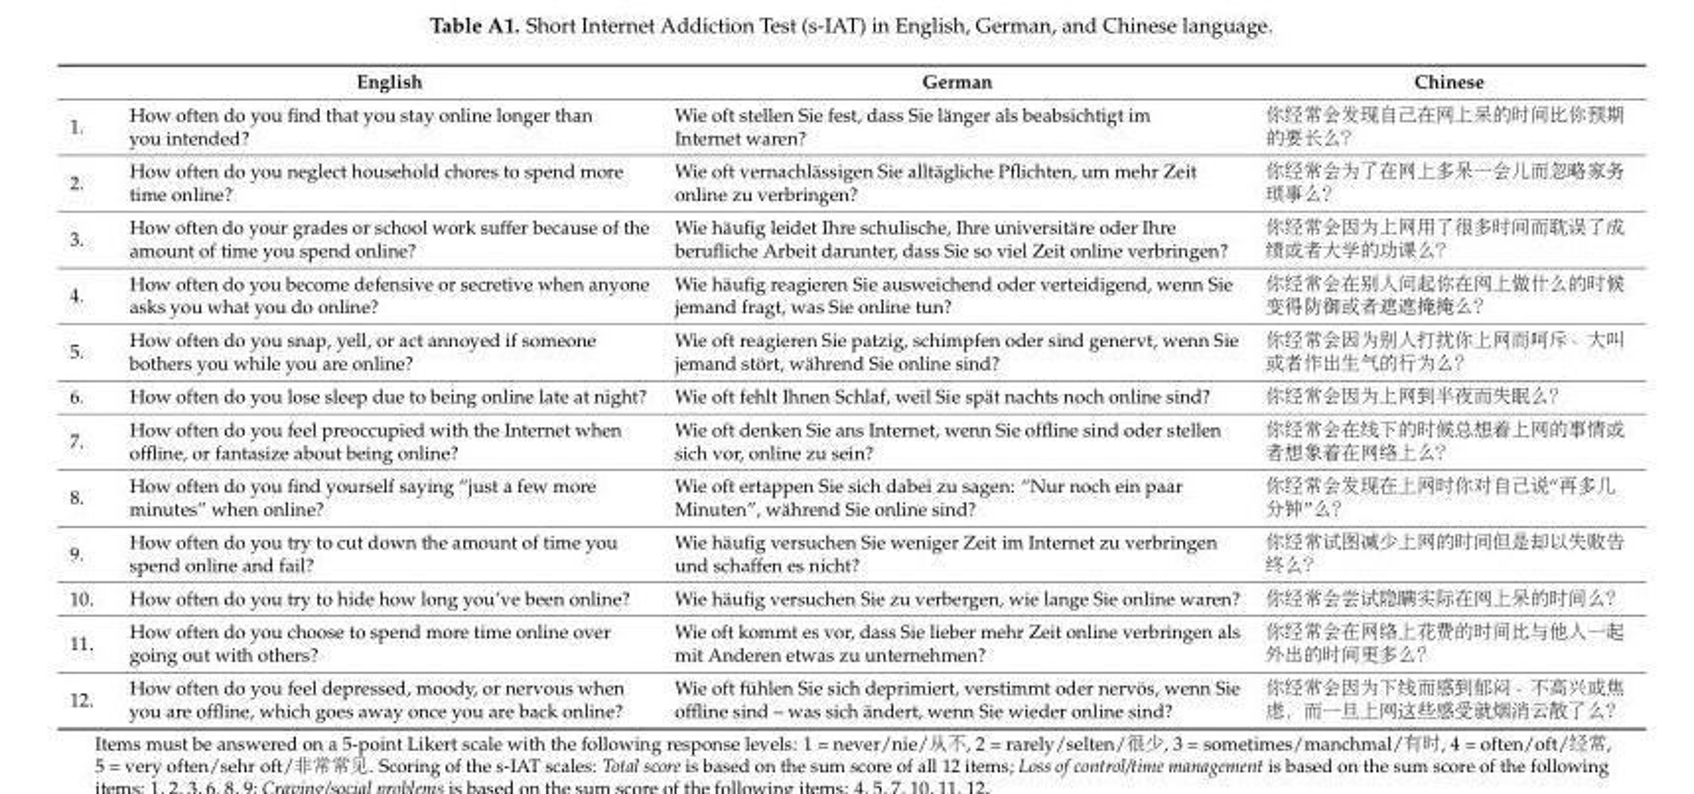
<table><thead><tr><td></td><td>English</td><td>German</td><td>Chinese</td></tr></thead><tbody><tr><td>1.</td><td>How often do you find that you stay online longer than you intended?</td><td>Wie oft stellen Sie fest, dass Sie länger als beabsichtigt im Internet waren?</td><td>你经常会发现自己在网上呆的时间比你预期 的要长么？</td></tr><tr><td>2.</td><td>How often do you neglect household chores to spend more time online?</td><td>Wie oft vernachlässigen Sie alltägliche Pflichten, um mehr Zeit online zu verbringen?</td><td>你经常会为了在网上多呆一会儿而忽略家务 琐事么？</td></tr><tr><td>3.</td><td>How often do your grades or school work suffer because of the amount of time you spend online?</td><td>Wie häufig leidet Ihre schulische, Ihre universitäre oder Ihre berufliche Arbeit darunter, dass Sie so viel Zeit online verbringen?</td><td>你经常会因为上网用了很多时间而耽误了成 绩或者大学的功课么？</td></tr><tr><td>4.</td><td>How often do you become defensive or secretive when anyone asks you what you do online?</td><td>Wie häufig reagieren Sie ausweichend oder verteidigend, wenn Sie jemand fragt, was Sie online tun?</td><td>你经常会在别人问起你在网上做什么的时候 变得防御或者遮遮掩掩么？</td></tr><tr><td>5.</td><td>How often do you snap, yell, or act annoyed if someone bothers you while you are online?</td><td>Wie oft reagieren Sie patzig, schimpfen oder sind genervt, wenn Sie jemand stört, während Sie online sind?</td><td>你经常会因为别人打扰你上网而呵斥、大叫 或者作出生气的行为么？</td></tr><tr><td>6.</td><td>How often do you lose sleep due to being online late at night?</td><td>Wie oft fehlt Ihnen Schlaf, weil Sie spät nachts noch online sind?</td><td>你经常会因为上网到半夜而失眠么？</td></tr><tr><td>7.</td><td>How often do you feel preoccupied with the Internet when offline, or fantasize about being online?</td><td>Wie oft denken Sie ans Internet, wenn Sie offline sind oder stellen sich vor, online zu sein?</td><td>你经常会在线下的时候总想着上网的事情或 者想象着在网络上么？</td></tr><tr><td>8.</td><td>How often do you find yourself saying “just a few more minutes” when online?</td><td>Wie oft ertappen Sie sich dabei zu sagen: “Nur noch ein paar Minuten”, während Sie online sind?</td><td>你经常会发现在上网时你对自己说“再多几 分钟”么？</td></tr><tr><td>9.</td><td>How often do you try to cut down the amount of time you spend online and fail?</td><td>Wie häufig versuchen Sie weniger Zeit im Internet zu verbringen und schaffen es nicht?</td><td>你经常试图减少上网的时间但是却以失败告 终么？</td></tr><tr><td>10.</td><td>How often do you try to hide how long you’ve been online?</td><td>Wie häufig versuchen Sie zu verbergen, wie lange Sie online waren?</td><td>你经常会尝试隐瞒实际在网上呆的时间么？</td></tr><tr><td>11.</td><td>How often do you choose to spend more time online over going out with others?</td><td>Wie oft kommt es vor, dass Sie lieber mehr Zeit online verbringen als mit Anderen etwas zu unternehmen?</td><td>你经常会在网络上花费的时间比与他人一起 外出的时间更多么？</td></tr><tr><td>12.</td><td>How often do you feel depressed, moody, or nervous when you are offline, which goes away once you are back online?</td><td>Wie oft fühlen Sie sich deprimiert, verstimmt oder nervös, wenn Sie offline sind – was sich ändert, wenn Sie wieder online sind?</td><td>你经常会因为下线而感到郁闷、不高兴或焦 虑，而一旦上网这些感受就烟消云散了么？</td></tr></tbody></table>